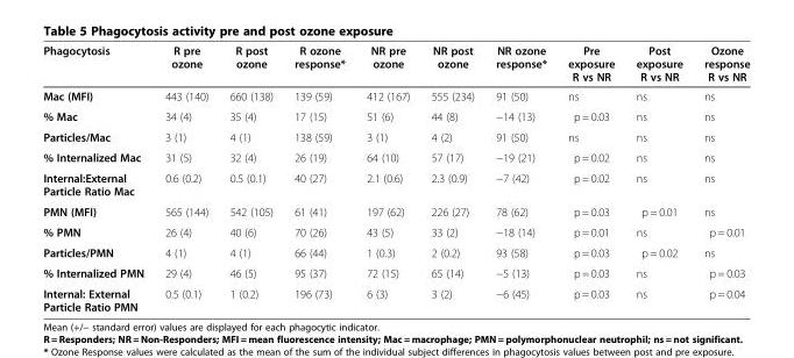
<table><thead><tr><td>Phagocytosis</td><td>R pre ozone</td><td>R post ozone</td><td>R ozone response*</td><td>NR pre ozone</td><td>NR post ozone</td><td>NR ozone response*</td><td>Pre exposure R vs NR</td><td>Post exposure R vs NR</td><td>Ozone response R vs NR</td></tr></thead><tbody><tr><td>Mac (MFI)</td><td>443 (140)</td><td>660 (138)</td><td>139 (59)</td><td>412 (167)</td><td>555 (234)</td><td>91 (50)</td><td>ns</td><td>ns</td><td>ns</td></tr><tr><td>% Mac</td><td>34 (4)</td><td>35 (4)</td><td>17 (15)</td><td>51 (6)</td><td>44 (8)</td><td>−14 (13)</td><td>p = 0.03</td><td>ns</td><td>ns</td></tr><tr><td>Particles/Mac</td><td>3 (1)</td><td>4 (1)</td><td>138 (59)</td><td>3 (1)</td><td>4 (2)</td><td>91 (50)</td><td>ns</td><td>ns</td><td>ns</td></tr><tr><td>% Internalized Mac</td><td>31 (5)</td><td>32 (4)</td><td>26 (19)</td><td>64 (10)</td><td>57 (17)</td><td>−19 (21)</td><td>p = 0.02</td><td>ns</td><td>ns</td></tr><tr><td>Internal:External Particle Ratio Mac</td><td>0.6 (0.2)</td><td>0.5 (0.1)</td><td>40 (27)</td><td>2.1 (0.6)</td><td>2.3 (0.9)</td><td>−7 (42)</td><td>p = 0.02</td><td>ns</td><td>ns</td></tr><tr><td>PMN (MFI)</td><td>565 (144)</td><td>542 (105)</td><td>61 (41)</td><td>197 (62)</td><td>226 (27)</td><td>78 (62)</td><td>p = 0.03</td><td>p = 0.01</td><td>ns</td></tr><tr><td>% PMN</td><td>26 (4)</td><td>40 (6)</td><td>70 (26)</td><td>43 (5)</td><td>33 (2)</td><td>−18 (14)</td><td>p = 0.01</td><td>ns</td><td>p = 0.01</td></tr><tr><td>Particles/PMN</td><td>4 (1)</td><td>4 (1)</td><td>66 (44)</td><td>1 (0.3)</td><td>2 (0.2)</td><td>93 (58)</td><td>p = 0.03</td><td>p = 0.02</td><td>ns</td></tr><tr><td>% Internalized PMN</td><td>29 (4)</td><td>46 (5)</td><td>95 (37)</td><td>72 (15)</td><td>65 (14)</td><td>−5 (13)</td><td>p = 0.03</td><td>ns</td><td>p = 0.03</td></tr><tr><td>Internal: External Particle Ratio PMN</td><td>0.5 (0.1)</td><td>1 (0.2)</td><td>196 (73)</td><td>6 (3)</td><td>3 (2)</td><td>−6 (45)</td><td>p = 0.03</td><td>ns</td><td>p = 0.04</td></tr></tbody></table>